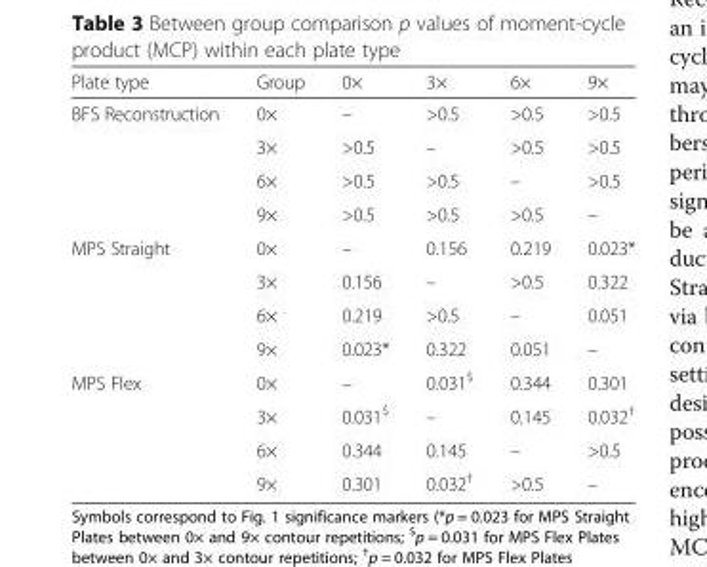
<table><thead><tr><td>Plate type</td><td>Group</td><td>0×</td><td>3×</td><td>6×</td><td>9×</td></tr></thead><tbody><tr><td rowspan="4">BFS Reconstruction</td><td>0×</td><td>–</td><td>&gt;0.5</td><td>&gt;0.5</td><td>&gt;0.5</td></tr><tr><td>3×</td><td>&gt;0.5</td><td>–</td><td>&gt;0.5</td><td>&gt;0.5</td></tr><tr><td>6×</td><td>&gt;0.5</td><td>&gt;0.5</td><td>–</td><td>&gt;0.5</td></tr><tr><td>9×</td><td>&gt;0.5</td><td>&gt;0.5</td><td>&gt;0.5</td><td>–</td></tr><tr><td rowspan="4">MPS Straight</td><td>0×</td><td>–</td><td>0.156</td><td>0.219</td><td>0.023*</td></tr><tr><td>3×</td><td>0.156</td><td>–</td><td>&gt;0.5</td><td>0.322</td></tr><tr><td>6×</td><td>0.219</td><td>&gt;0.5</td><td>–</td><td>0.051</td></tr><tr><td>9×</td><td>0.023*</td><td>0.322</td><td>0.051</td><td>–</td></tr><tr><td rowspan="4">MPS Flex</td><td>0×</td><td>–</td><td>0.031<sup>$</sup></td><td>0.344</td><td>0.301</td></tr><tr><td>3×</td><td>0.031<sup>$</sup></td><td>–</td><td>0.145</td><td>0.032<sup>†</sup></td></tr><tr><td>6×</td><td>0.344</td><td>0.145</td><td>–</td><td>&gt;0.5</td></tr><tr><td>9×</td><td>0.301</td><td>0.032<sup>†</sup></td><td>&gt;0.5</td><td>–</td></tr></tbody></table>